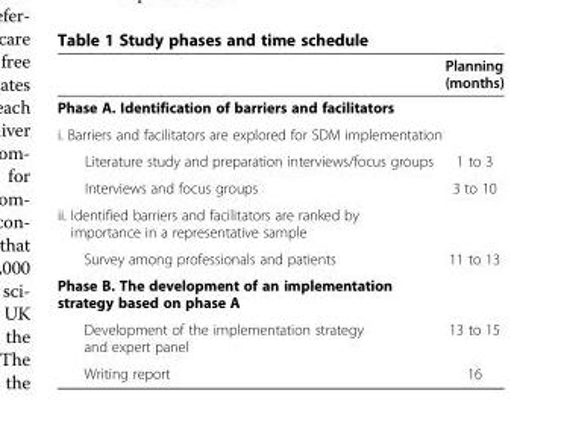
<table><thead><tr><td></td><td>Planning (months)</td></tr></thead><tbody><tr><td colspan="2">Phase A. Identification of barriers and facilitators</td></tr><tr><td colspan="2">i. Barriers and facilitators are explored for SDM implementation</td></tr><tr><td>Literature study and preparation interviews/focus groups</td><td>1 to 3</td></tr><tr><td>Interviews and focus groups</td><td>3 to 10</td></tr><tr><td colspan="2">ii. Identified barriers and facilitators are ranked by importance in a representative sample</td></tr><tr><td>Survey among professionals and patients</td><td>11 to 13</td></tr><tr><td colspan="2">Phase B. The development of an implementation strategy based on phase A</td></tr><tr><td>Development of the implementation strategy and expert panel</td><td>13 to 15</td></tr><tr><td>Writing report</td><td>16</td></tr></tbody></table>